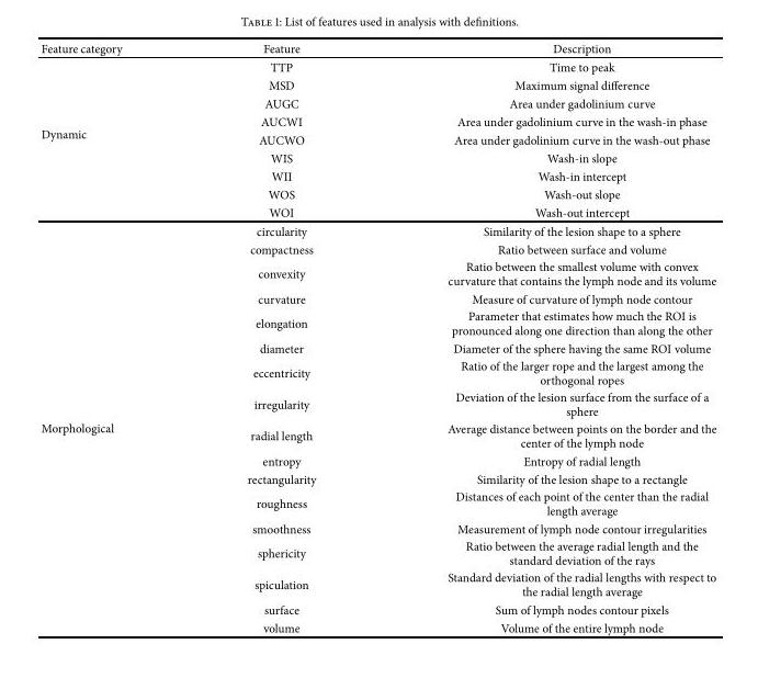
<table><thead><tr><td>Feature category</td><td>Feature</td><td>Description</td></tr></thead><tbody><tr><td rowspan="9">Dynamic</td><td>TTP</td><td>Time to peak</td></tr><tr><td>MSD</td><td>Maximum signal difference</td></tr><tr><td>AUGC</td><td>Area under gadolinium curve</td></tr><tr><td>AUCWI</td><td>Area under gadolinium curve in the wash-in phase</td></tr><tr><td>AUCWO</td><td>Area under gadolinium curve in the wash-out phase</td></tr><tr><td>WIS</td><td>Wash-in slope</td></tr><tr><td>WII</td><td>Wash-in intercept</td></tr><tr><td>WOS</td><td>Wash-out slope</td></tr><tr><td>WOI</td><td>Wash-out intercept</td></tr><tr><td rowspan="17">Morphological</td><td>circularity</td><td>Similarity of the lesion shape to a sphere</td></tr><tr><td>compactness</td><td>Ratio between surface and volume</td></tr><tr><td>convexity</td><td>Ratio between the smallest volume with convex curvature that contains the lymph node and its volume</td></tr><tr><td>curvature</td><td>Measure of curvature of lymph node contour</td></tr><tr><td>elongation</td><td>Parameter that estimates how much the ROI is pronounced along one direction than along the other</td></tr><tr><td>diameter</td><td>Diameter of the sphere having the same ROI volume</td></tr><tr><td>eccentricity</td><td>Ratio of the larger rope and the largest among the orthogonal ropes</td></tr><tr><td>irregularity</td><td>Deviation of the lesion surface from the surface of a sphere</td></tr><tr><td>radial length</td><td>Average distance between points on the border and the center of the lymph node</td></tr><tr><td>entropy</td><td>Entropy of radial length</td></tr><tr><td>rectangularity</td><td>Similarity of the lesion shape to a rectangle</td></tr><tr><td>roughness</td><td>Distances of each point of the center than the radial length average</td></tr><tr><td>smoothness</td><td>Measurement of lymph node contour irregularities</td></tr><tr><td>sphericity</td><td>Ratio between the average radial length and the standard deviation of the rays</td></tr><tr><td>spiculation</td><td>Standard deviation of the radial lengths with respect to the radial length average</td></tr><tr><td>surface</td><td>Sum of lymph nodes contour pixels</td></tr><tr><td>volume</td><td>Volume of the entire lymph node</td></tr></tbody></table>